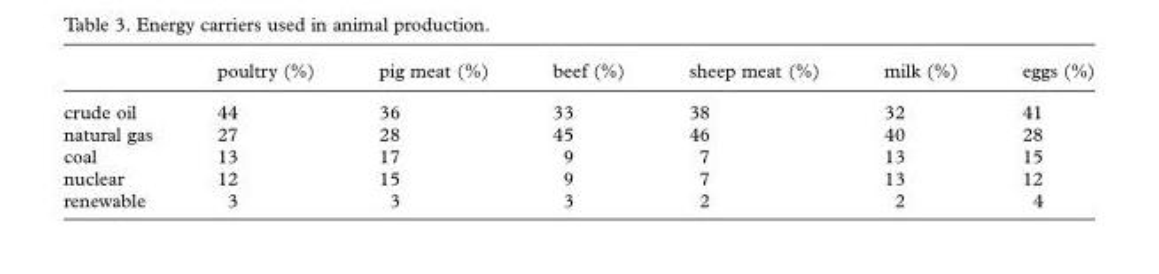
<table><thead><tr><td></td><td>poultry (%)</td><td>pig meat (%)</td><td>beef (%)</td><td>sheep meat (%)</td><td>milk (%)</td><td>eggs (%)</td></tr></thead><tbody><tr><td>crude oil</td><td>44</td><td>36</td><td>33</td><td>38</td><td>32</td><td>41</td></tr><tr><td>natural gas</td><td>27</td><td>28</td><td>45</td><td>46</td><td>40</td><td>28</td></tr><tr><td>coal</td><td>13</td><td>17</td><td>9</td><td>7</td><td>13</td><td>15</td></tr><tr><td>nuclear</td><td>12</td><td>15</td><td>9</td><td>7</td><td>13</td><td>12</td></tr><tr><td>renewable</td><td>3</td><td>3</td><td>3</td><td>2</td><td>2</td><td>4</td></tr></tbody></table>